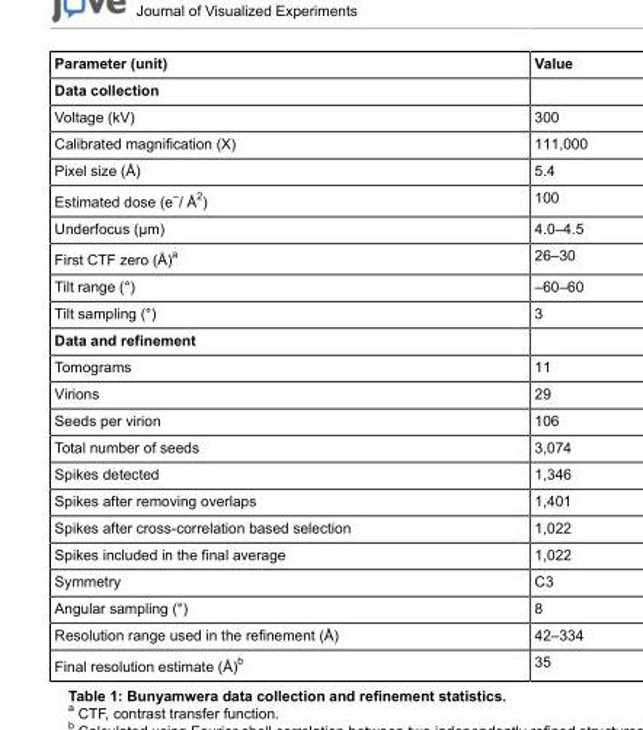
<table><tbody><tr><td>Parameter (unit)</td><td>Value</td></tr><tr><td colspan="2">Data collection</td></tr><tr><td>Voltage (kV)</td><td>300</td></tr><tr><td>Calibrated magnification (X)</td><td>111,000</td></tr><tr><td>Pixel size (Å)</td><td>5.4</td></tr><tr><td>Estimated dose (e<sup>–</sup>/ Å<sup>2</sup>)</td><td>100</td></tr><tr><td>Underfocus (μm)</td><td>4.0–4.5</td></tr><tr><td>First CTF zero (Å)<sup>a</sup></td><td>26–30</td></tr><tr><td>Tilt range (°)</td><td>–60–60</td></tr><tr><td>Tilt sampling (°)</td><td>3</td></tr><tr><td colspan="2">Data and refinement</td></tr><tr><td>Tomograms</td><td>11</td></tr><tr><td>Virions</td><td>29</td></tr><tr><td>Seeds per virion</td><td>106</td></tr><tr><td>Total number of seeds</td><td>3,074</td></tr><tr><td>Spikes detected</td><td>1,346</td></tr><tr><td>Spikes after removing overlaps</td><td>1,401</td></tr><tr><td>Spikes after cross-correlation based selection</td><td>1,022</td></tr><tr><td>Spikes included in the final average</td><td>1,022</td></tr><tr><td>Symmetry</td><td>C3</td></tr><tr><td>Angular sampling (°)</td><td>8</td></tr><tr><td>Resolution range used in the refinement (Å)</td><td>42–334</td></tr><tr><td>Final resolution estimate (Å)<sup>b</sup></td><td>35</td></tr></tbody></table>